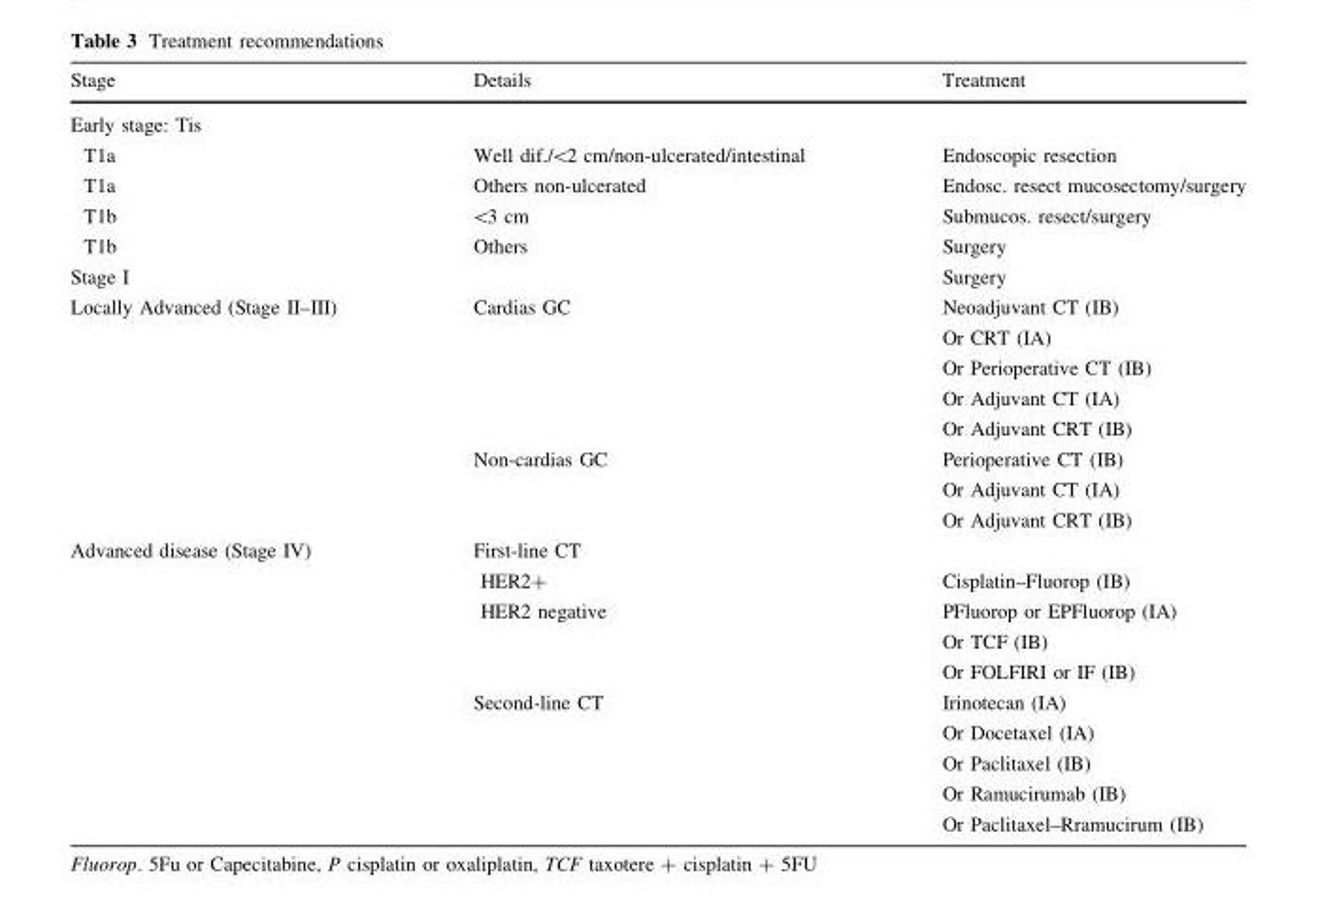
<table><thead><tr><td>Stage</td><td>Details</td><td>Treatment</td></tr></thead><tbody><tr><td colspan="3">Early stage: Tis</td></tr><tr><td>T1a T1a T1b T1b</td><td>Well dif./&lt;2 cm/non-ulcerated/intestinal Others non-ulcerated &lt;3 cm Others</td><td>Endoscopic resection Endosc. resect mucosectomy/surgery Submucos. resect/surgery Surgery</td></tr><tr><td>Stage I</td><td></td><td>Surgery</td></tr><tr><td rowspan="8">Locally Advanced (Stage II–III)</td><td rowspan="5">Cardias GC</td><td>Neoadjuvant CT (IB)</td></tr><tr><td>Or CRT (IA)</td></tr><tr><td>Or Perioperative CT (IB)</td></tr><tr><td>Or Adjuvant CT (IA)</td></tr><tr><td>Or Adjuvant CRT (IB)</td></tr><tr><td rowspan="3">Non-cardias GC</td><td>Perioperative CT (IB)</td></tr><tr><td>Or Adjuvant CT (IA)</td></tr><tr><td>Or Adjuvant CRT (IB)</td></tr><tr><td rowspan="10">Advanced disease (Stage IV)</td><td colspan="2">First-line CT</td></tr><tr><td>HER2+</td><td>Cisplatin–Fluorop (IB)</td></tr><tr><td rowspan="3">HER2 negative</td><td>PFluorop or EPFluorop (IA)</td></tr><tr><td>Or TCF (IB)</td></tr><tr><td>Or FOLFIRI or IF (IB)</td></tr><tr><td rowspan="5">Second-line CT</td><td>Irinotecan (IA)</td></tr><tr><td>Or Docetaxel (IA)</td></tr><tr><td>Or Paclitaxel (IB)</td></tr><tr><td>Or Ramucirumab (IB)</td></tr><tr><td>Or Paclitaxel–Rramucirum (IB)</td></tr></tbody></table>